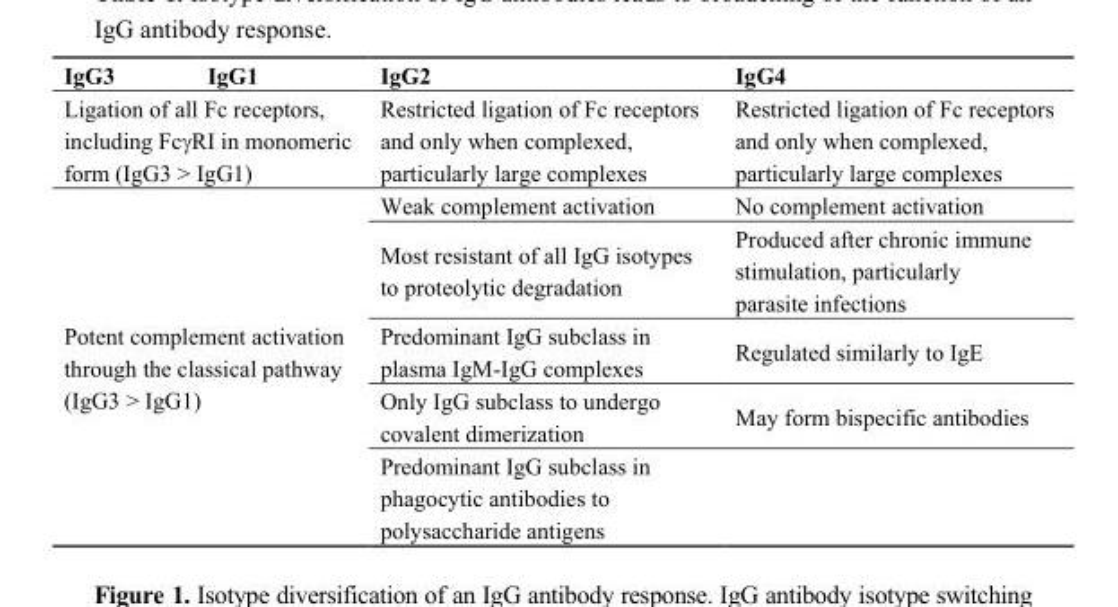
<table><thead><tr><td>IgG3</td><td>IgG1</td><td>IgG2</td><td>IgG4</td></tr></thead><tbody><tr><td colspan="2">Ligation of all Fc receptors, including FcγRI in monomeric form (IgG3 &gt; IgG1)</td><td>Restricted ligation of Fc receptors and only when complexed, particularly large complexes</td><td>Restricted ligation of Fc receptors and only when complexed, particularly large complexes</td></tr><tr><td rowspan="5" colspan="2">Potent complement activation through the classical pathway (IgG3 &gt; IgG1)</td><td>Weak complement activation</td><td>No complement activation</td></tr><tr><td>Most resistant of all IgG isotypes to proteolytic degradation</td><td>Produced after chronic immune stimulation, particularly parasite infections</td></tr><tr><td>Predominant IgG subclass in plasma IgM-IgG complexes</td><td>Regulated similarly to IgE</td></tr><tr><td>Only IgG subclass to undergo covalent dimerization</td><td>May form bispecific antibodies</td></tr><tr><td>Predominant IgG subclass in phagocytic antibodies to polysaccharide antigens</td><td></td></tr></tbody></table>